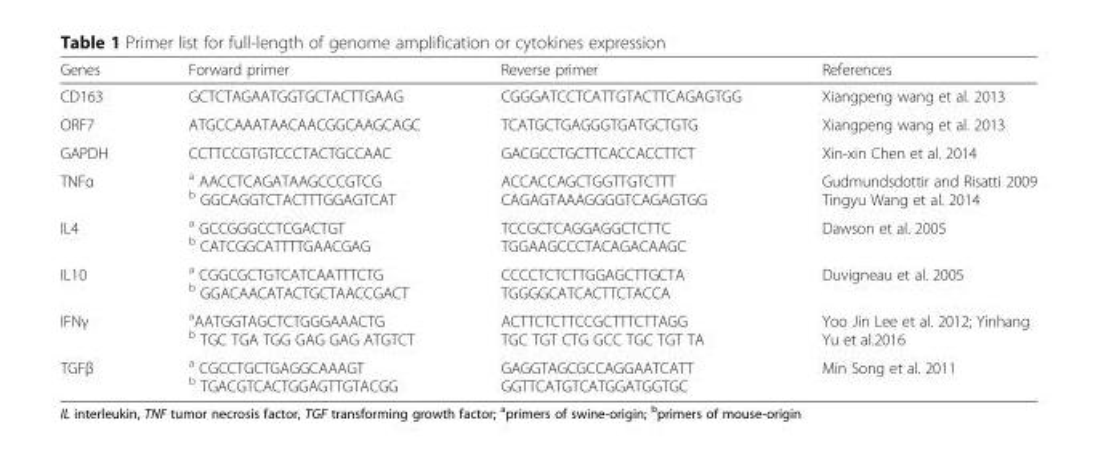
<table><thead><tr><td>Genes</td><td>Forward primer</td><td>Reverse primer</td><td>References</td></tr></thead><tbody><tr><td>CD163</td><td>GCTCTAGAATGGTGCTACTTGAAG</td><td>CGGGATCCTCATTGTACTTCAGAGTGG</td><td>Xiangpeng wang et al. 2013</td></tr><tr><td>ORF7</td><td>ATGCCAAATAACAACGGCAAGCAGC</td><td>TCATGCTGAGGGTGATGCTGTG</td><td>Xiangpeng wang et al. 2013</td></tr><tr><td>GAPDH</td><td>CCTTCCGTGTCCCTACTGCCAAC</td><td>GACGCCTGCTTCACCACCTTCT</td><td>Xin-xin Chen et al. 2014</td></tr><tr><td>TNFα</td><td><sup>a</sup> AACCTCAGATAAGCCCGTCG <sup>b</sup> GGCAGGTCTACTTTGGAGTCAT</td><td>ACCACCAGCTGGTTGTCTTT CAGAGTAAAGGGGTCAGAGTGG</td><td>Gudmundsdottir and Risatti 2009 Tingyu Wang et al. 2014</td></tr><tr><td>IL4</td><td><sup>a</sup> GCCGGGCCTCGACTGT <sup>b</sup> CATCGGCATTTTGAACGAG</td><td>TCCGCTCAGGAGGCTCTTC TGGAAGCCCTACAGACAAGC</td><td>Dawson et al. 2005</td></tr><tr><td>IL10</td><td><sup>a</sup> CGGCGCTGTCATCAATTTCTG <sup>b</sup> GGACAACATACTGCTAACCGACT</td><td>CCCCTCTCTTGGAGCTTGCTA TGGGGCATCACTTCTACCA</td><td>Duvigneau et al. 2005</td></tr><tr><td>IFNγ</td><td><sup>a</sup>AATGGTAGCTCTGGGAAACTG <sup>b</sup> TGC TGA TGG GAG GAG ATGTCT</td><td>ACTTCTCTTCCGCTTTCTTAGG TGC TGT CTG GCC TGC TGT TA</td><td>Yoo Jin Lee et al. 2012; Yinhang Yu et al.2016</td></tr><tr><td>TGFβ</td><td><sup>a</sup> CGCCTGCTGAGGCAAAGT <sup>b</sup> TGACGTCACTGGAGTTGTACGG</td><td>GAGGTAGCGCCAGGAATCATT GGTTCATGTCATGGATGGTGC</td><td>Min Song et al. 2011</td></tr></tbody></table>